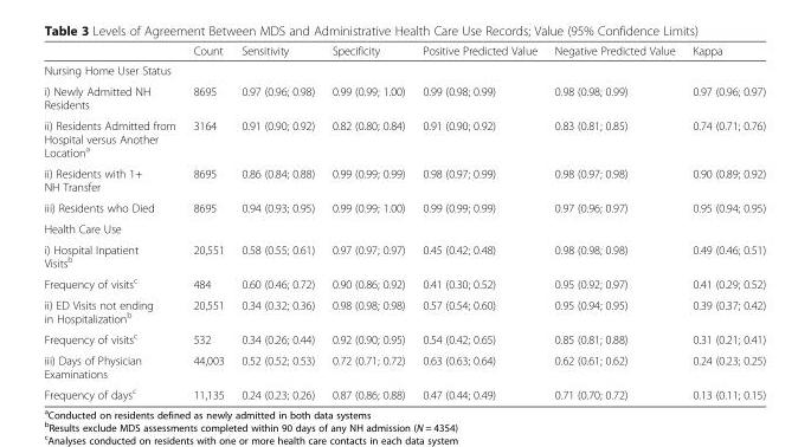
<table><thead><tr><td></td><td>Count</td><td>Sensitivity</td><td>Specificity</td><td>Positive Predicted Value</td><td>Negative Predicted Value</td><td>Kappa</td></tr></thead><tbody><tr><td colspan="7">Nursing Home User Status</td></tr><tr><td>i) Newly Admitted NH Residents</td><td>8695</td><td>0.97 (0.96; 0.98)</td><td>0.99 (0.99; 1.00)</td><td>0.99 (0.98; 0.99)</td><td>0.98 (0.98; 0.99)</td><td>0.97 (0.96; 0.97)</td></tr><tr><td>ii) Residents Admitted from Hospital versus Another Location<sup>a</sup></td><td>3164</td><td>0.91 (0.90; 0.92)</td><td>0.82 (0.80; 0.84)</td><td>0.91 (0.90; 0.92)</td><td>0.83 (0.81; 0.85)</td><td>0.74 (0.71; 0.76)</td></tr><tr><td>ii) Residents with 1+ NH Transfer</td><td>8695</td><td>0.86 (0.84; 0.88)</td><td>0.99 (0.99; 0.99)</td><td>0.98 (0.97; 0.99)</td><td>0.98 (0.97; 0.98)</td><td>0.90 (0.89; 0.92)</td></tr><tr><td>iii) Residents who Died</td><td>8695</td><td>0.94 (0.93; 0.95)</td><td>0.99 (0.99; 1.00)</td><td>0.99 (0.99; 0.99)</td><td>0.97 (0.96; 0.97)</td><td>0.95 (0.94; 0.95)</td></tr><tr><td colspan="7">Health Care Use</td></tr><tr><td>i) Hospital Inpatient Visits<sup>b</sup></td><td>20,551</td><td>0.58 (0.55; 0.61)</td><td>0.97 (0.97; 0.97)</td><td>0.45 (0.42; 0.48)</td><td>0.98 (0.98; 0.98)</td><td>0.49 (0.46; 0.51)</td></tr><tr><td>Frequency of visits<sup>c</sup></td><td>484</td><td>0.60 (0.46; 0.72)</td><td>0.90 (0.86; 0.92)</td><td>0.41 (0.30; 0.52)</td><td>0.95 (0.92; 0.97)</td><td>0.41 (0.29; 0.52)</td></tr><tr><td>ii) ED Visits not ending in Hospitalization<sup>b</sup></td><td>20,551</td><td>0.34 (0.32; 0.36)</td><td>0.98 (0.98; 0.98)</td><td>0.57 (0.54; 0.60)</td><td>0.95 (0.94; 0.95)</td><td>0.39 (0.37; 0.42)</td></tr><tr><td>Frequency of visits<sup>c</sup></td><td>532</td><td>0.34 (0.26; 0.44)</td><td>0.92 (0.90; 0.95)</td><td>0.54 (0.42; 0.65)</td><td>0.85 (0.81; 0.88)</td><td>0.31 (0.21; 0.41)</td></tr><tr><td>iii) Days of Physician Examinations</td><td>44,003</td><td>0.52 (0.52; 0.53)</td><td>0.72 (0.71; 0.72)</td><td>0.63 (0.63; 0.64)</td><td>0.62 (0.61; 0.62)</td><td>0.24 (0.23; 0.25)</td></tr><tr><td>Frequency of days<sup>c</sup></td><td>11,135</td><td>0.24 (0.23; 0.26)</td><td>0.87 (0.86; 0.88)</td><td>0.47 (0.44; 0.49)</td><td>0.71 (0.70; 0.72)</td><td>0.13 (0.11; 0.15)</td></tr></tbody></table>